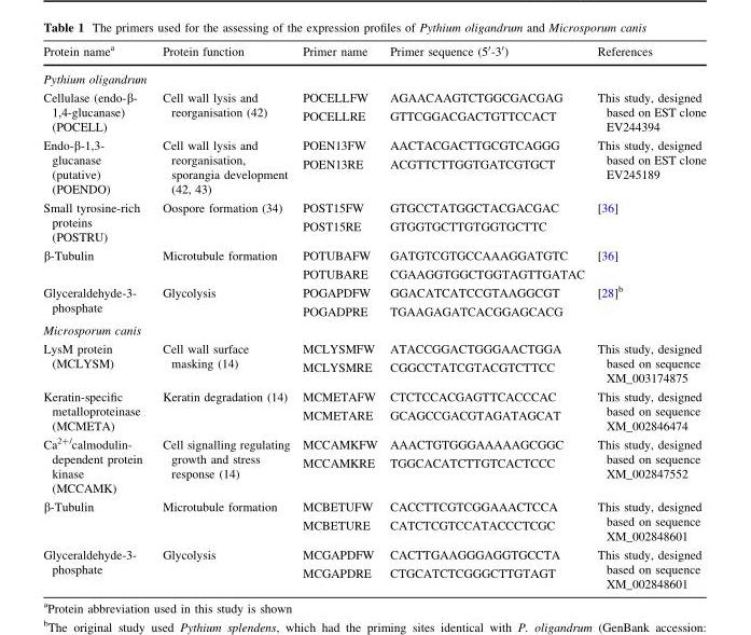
<table><thead><tr><td>Protein name<sup>a</sup></td><td>Protein function</td><td>Primer name</td><td>Primer sequence (5′-3′)</td><td>References</td></tr></thead><tbody><tr><td colspan="5">Pythium oligandrum</td></tr><tr><td rowspan="2">Cellulase (endo-β- 1,4-glucanase) (POCELL)</td><td rowspan="2">Cell wall lysis and reorganisation (42)</td><td>POCELLFW</td><td>AGAACAAGTCTGGCGACGAG</td><td rowspan="2">This study, designed based on EST clone EV244394</td></tr><tr><td>POCELLRE</td><td>GTTCGGACGACTGTTCCACT</td></tr><tr><td rowspan="2">Endo-β-1,3- glucanase (putative) (POENDO)</td><td rowspan="2">Cell wall lysis and reorganisation, sporangia development (42, 43)</td><td>POEN13FW</td><td>AACTACGACTTGCGTCAGGG</td><td rowspan="2">This study, designed based on EST clone EV245189</td></tr><tr><td>POEN13RE</td><td>ACGTTCTTGGTGATCGTGCT</td></tr><tr><td rowspan="2">Small tyrosine-rich proteins (POSTRU)</td><td rowspan="2">Oospore formation (34)</td><td>POST15FW</td><td>GTGCCTATGGCTACGACGAC</td><td rowspan="2">[36]</td></tr><tr><td>POST15RE</td><td>GTGGTGCTTGTGGTGCTTC</td></tr><tr><td rowspan="2">β-Tubulin</td><td rowspan="2">Microtubule formation</td><td>POTUBAFW</td><td>GATGTCGTGCCAAAGGATGTC</td><td rowspan="2">[36]</td></tr><tr><td>POTUBARE</td><td>CGAAGGTGGCTGGTAGTTGATAC</td></tr><tr><td rowspan="2">Glyceraldehyde-3- phosphate</td><td rowspan="2">Glycolysis</td><td>POGAPDFW</td><td>GGACATCATCCGTAAGGCGT</td><td rowspan="2">[28]<sup>b</sup></td></tr><tr><td>POGADPRE</td><td>TGAAGAGATCACGGAGCACG</td></tr><tr><td colspan="5">Microsporum canis</td></tr><tr><td rowspan="2">LysM protein (MCLYSM)</td><td rowspan="2">Cell wall surface masking (14)</td><td>MCLYSMFW</td><td>ATACCGGACTGGGAACTGGA</td><td rowspan="2">This study, designed based on sequence XM_003174875</td></tr><tr><td>MCLYSMRE</td><td>CGGCCTATCGTACGTCTTCC</td></tr><tr><td rowspan="2">Keratin-specific metalloproteinase (MCMETA)</td><td rowspan="2">Keratin degradation (14)</td><td>MCMETAFW</td><td>CTCTCCACGAGTTCACCCAC</td><td rowspan="2">This study, designed based on sequence XM_002846474</td></tr><tr><td>MCMETARE</td><td>GCAGCCGACGTAGATAGCAT</td></tr><tr><td rowspan="2">Ca<sup>2+/</sup>calmodulin- dependent protein kinase (MCCAMK)</td><td rowspan="2">Cell signalling regulating growth and stress response (14)</td><td>MCCAMKFW</td><td>AAACTGTGGGAAAAAGCGGC</td><td rowspan="2">This study, designed based on sequence XM_002847552</td></tr><tr><td>MCCAMKRE</td><td>TGGCACATCTTGTCACTCCC</td></tr><tr><td rowspan="2">β-Tubulin</td><td rowspan="2">Microtubule formation</td><td>MCBETUFW</td><td>CACCTTCGTCGGAAACTCCA</td><td rowspan="2">This study, designed based on sequence XM_002848601</td></tr><tr><td>MCBETURE</td><td>CATCTCGTCCATACCCTCGC</td></tr><tr><td rowspan="2">Glyceraldehyde-3- phosphate</td><td rowspan="2">Glycolysis</td><td>MCGAPDFW</td><td>CACTTGAAGGGAGGTGCCTA</td><td rowspan="2">This study, designed based on sequence XM_002848601</td></tr><tr><td>MCGAPDRE</td><td>CTGCATCTCGGGCTTGTAGT</td></tr></tbody></table>